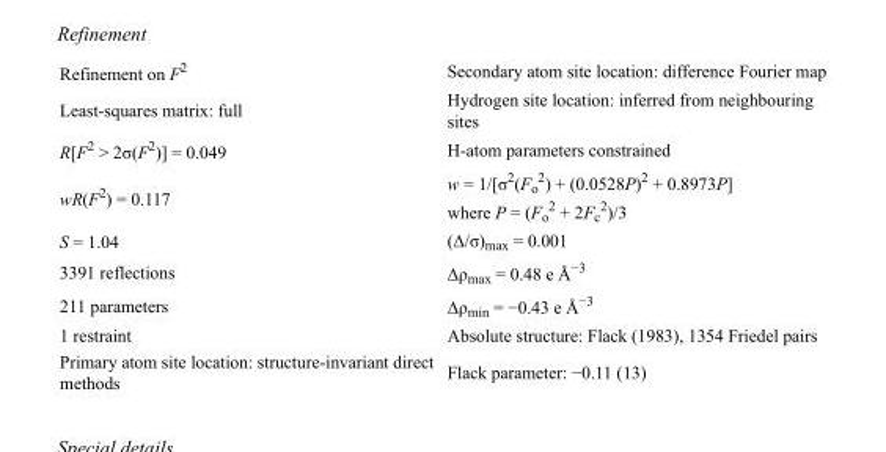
<table><tbody><tr><td>Refinement on F<sup>2</sup></td><td>Secondary atom site location: difference Fourier map</td></tr><tr><td>Least-squares matrix: full</td><td>Hydrogen site location: inferred from neighbouring sites</td></tr><tr><td>R[F<sup>2</sup> &gt; 2σ(F<sup>2</sup>)] = 0.049</td><td>H-atom parameters constrained</td></tr><tr><td>wR(F<sup>2</sup>) = 0.117</td><td>w = 1/[σ<sup>2</sup>(F<sub>o</sub> <sup>2</sup>) + (0.0528P)<sup>2</sup> + 0.8973P] where P = (F<sub>o</sub> <sup>2</sup> + 2F<sub>c</sub> <sup>2</sup>)/3</td></tr><tr><td>S = 1.04</td><td>(Δ/σ)<sub>max</sub> = 0.001</td></tr><tr><td>3391 reflections</td><td>Δρ<sub>max</sub> = 0.48 e Å<sup>−3</sup></td></tr><tr><td>211 parameters</td><td>Δρ<sub>min</sub> = −0.43 e Å<sup>−3</sup></td></tr><tr><td>1 restraint</td><td>Absolute structure: Flack (1983), 1354 Friedel pairs</td></tr><tr><td>Primary atom site location: structure-invariant direct methods</td><td>Flack parameter: −0.11 (13)</td></tr></tbody></table>